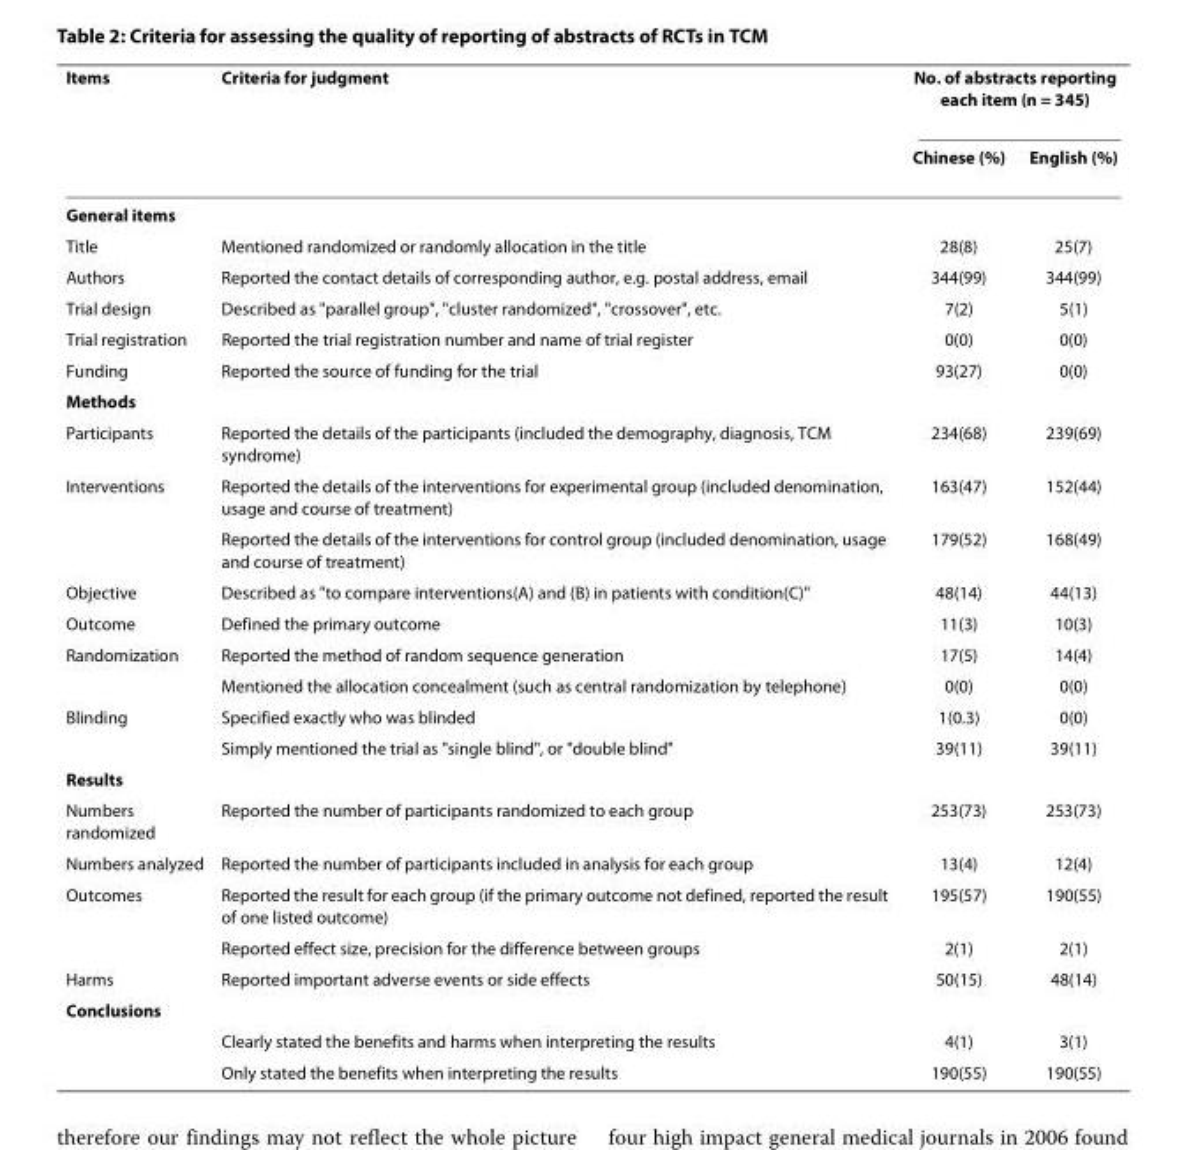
<table><thead><tr><td rowspan="2">Items</td><td rowspan="2">Criteria for judgment</td><td colspan="2">No. of abstracts reporting each item (n = 345)</td></tr><tr><td>Chinese (%)</td><td>English (%)</td></tr></thead><tbody><tr><td colspan="4">General items</td></tr><tr><td>Title</td><td>Mentioned randomized or randomly allocation in the title</td><td>28(8)</td><td>25(7)</td></tr><tr><td>Authors</td><td>Reported the contact details of corresponding author, e.g. postal address, email</td><td>344(99)</td><td>344(99)</td></tr><tr><td>Trial design</td><td>Described as &quot;parallel group&quot;, &quot;cluster randomized&quot;, &quot;crossover&quot;, etc.</td><td>7(2)</td><td>5(1)</td></tr><tr><td>Trial registration</td><td>Reported the trial registration number and name of trial register</td><td>0(0)</td><td>0(0)</td></tr><tr><td>Funding</td><td>Reported the source of funding for the trial</td><td>93(27)</td><td>0(0)</td></tr><tr><td colspan="4">Methods</td></tr><tr><td>Participants</td><td>Reported the details of the participants (included the demography, diagnosis, TCM syndrome)</td><td>234(68)</td><td>239(69)</td></tr><tr><td rowspan="2">Interventions</td><td>Reported the details of the interventions for experimental group (included denomination, usage and course of treatment)</td><td>163(47)</td><td>152(44)</td></tr><tr><td>Reported the details of the interventions for control group (included denomination, usage and course of treatment)</td><td>179(52)</td><td>168(49)</td></tr><tr><td>Objective</td><td>Described as &quot;to compare interventions(A) and (B) in patients with condition(C)&quot;</td><td>48(14)</td><td>44(13)</td></tr><tr><td>Outcome</td><td>Defined the primary outcome</td><td>11(3)</td><td>10(3)</td></tr><tr><td rowspan="2">Randomization</td><td>Reported the method of random sequence generation</td><td>17(5)</td><td>14(4)</td></tr><tr><td>Mentioned the allocation concealment (such as central randomization by telephone)</td><td>0(0)</td><td>0(0)</td></tr><tr><td rowspan="2">Blinding</td><td>Specified exactly who was blinded</td><td>1(0.3)</td><td>0(0)</td></tr><tr><td>Simply mentioned the trial as &quot;single blind&quot;, or &quot;double blind&quot;</td><td>39(11)</td><td>39(11)</td></tr><tr><td colspan="4">Results</td></tr><tr><td>Numbers randomized</td><td>Reported the number of participants randomized to each group</td><td>253(73)</td><td>253(73)</td></tr><tr><td>Numbers analyzed</td><td>Reported the number of participants included in analysis for each group</td><td>13(4)</td><td>12(4)</td></tr><tr><td rowspan="2">Outcomes</td><td>Reported the result for each group (if the primary outcome not defined, reported the result of one listed outcome)</td><td>195(57)</td><td>190(55)</td></tr><tr><td>Reported effect size, precision for the difference between groups</td><td>2(1)</td><td>2(1)</td></tr><tr><td>Harms</td><td>Reported important adverse events or side effects</td><td>50(15)</td><td>48(14)</td></tr><tr><td colspan="4">Conclusions</td></tr><tr><td></td><td>Clearly stated the benefits and harms when interpreting the results</td><td>4(1)</td><td>3(1)</td></tr><tr><td></td><td>Only stated the benefits when interpreting the results</td><td>190(55)</td><td>190(55)</td></tr></tbody></table>